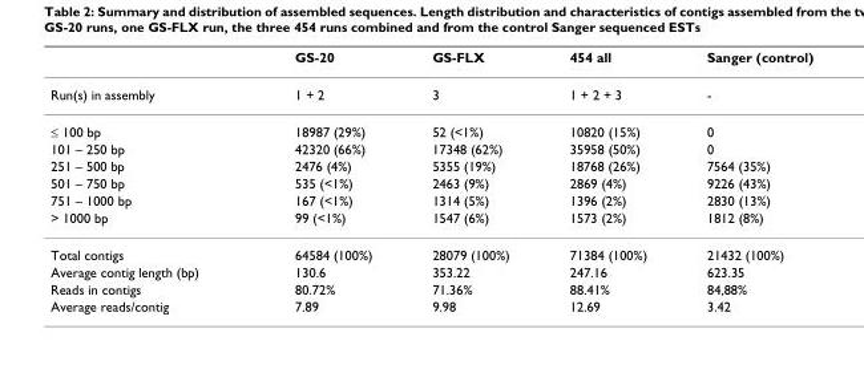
<table><thead><tr><td></td><td>GS-20</td><td>GS-FLX</td><td>454 all</td><td>Sanger (control)</td></tr></thead><tbody><tr><td>Run(s) in assembly</td><td>1 + 2</td><td>3</td><td>1 + 2 + 3</td><td>-</td></tr><tr><td>≤ 100 bp</td><td>18987 (29%)</td><td>52 (&lt;1%)</td><td>10820 (15%)</td><td>0</td></tr><tr><td>101 – 250 bp</td><td>42320 (66%)</td><td>17348 (62%)</td><td>35958 (50%)</td><td>0</td></tr><tr><td>251 – 500 bp</td><td>2476 (4%)</td><td>5355 (19%)</td><td>18768 (26%)</td><td>7564 (35%)</td></tr><tr><td>501 – 750 bp</td><td>535 (&lt;1%)</td><td>2463 (9%)</td><td>2869 (4%)</td><td>9226 (43%)</td></tr><tr><td>751 – 1000 bp</td><td>167 (&lt;1%)</td><td>1314 (5%)</td><td>1396 (2%)</td><td>2830 (13%)</td></tr><tr><td>&gt; 1000 bp</td><td>99 (&lt;1%)</td><td>1547 (6%)</td><td>1573 (2%)</td><td>1812 (8%)</td></tr><tr><td>Total contigs</td><td>64584 (100%)</td><td>28079 (100%)</td><td>71384 (100%)</td><td>21432 (100%)</td></tr><tr><td>Average contig length (bp)</td><td>130.6</td><td>353.22</td><td>247.16</td><td>623.35</td></tr><tr><td>Reads in contigs</td><td>80.72%</td><td>71.36%</td><td>88.41%</td><td>84,88%</td></tr><tr><td>Average reads/contig</td><td>7.89</td><td>9.98</td><td>12.69</td><td>3.42</td></tr></tbody></table>